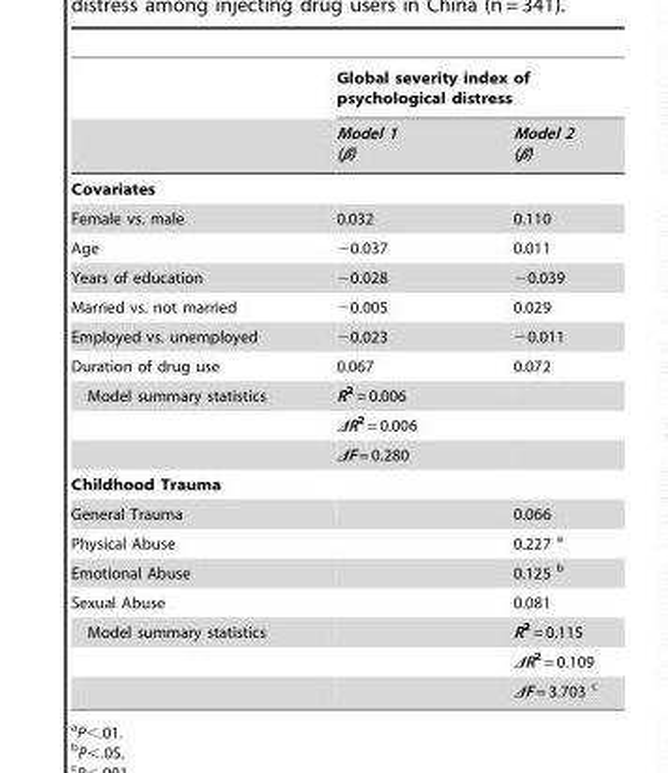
<table><thead><tr><td rowspan="2"></td><td colspan="2">Global severity index of psychological distress</td></tr><tr><td>Model 1 (β)</td><td>Model 2 (β)</td></tr></thead><tbody><tr><td colspan="3">Covariates</td></tr><tr><td>Female vs. male</td><td>0.032</td><td>0.110</td></tr><tr><td>Age</td><td>−0.037</td><td>0.011</td></tr><tr><td>Years of education</td><td>−0.028</td><td>−0.039</td></tr><tr><td>Married vs. not married</td><td>−0.005</td><td>0.029</td></tr><tr><td>Employed vs. unemployed</td><td>−0.023</td><td>−0.011</td></tr><tr><td>Duration of drug use</td><td>0.067</td><td>0.072</td></tr><tr><td rowspan="3">Model summary statistics</td><td>R<sup>2</sup> = 0.006</td><td></td></tr><tr><td>ΔR<sup>2</sup> = 0.006</td><td></td></tr><tr><td>ΔF = 0.280</td><td></td></tr><tr><td colspan="3">Childhood Trauma</td></tr><tr><td>General Trauma</td><td></td><td>0.066</td></tr><tr><td>Physical Abuse</td><td></td><td>0.227 a</td></tr><tr><td>Emotional Abuse</td><td></td><td>0.125 b</td></tr><tr><td>Sexual Abuse</td><td></td><td>0.081</td></tr><tr><td rowspan="3">Model summary statistics</td><td></td><td>R<sup>2</sup> = 0.115</td></tr><tr><td></td><td>ΔR<sup>2</sup> = 0.109</td></tr><tr><td></td><td>ΔF = 3.703 c</td></tr></tbody></table>